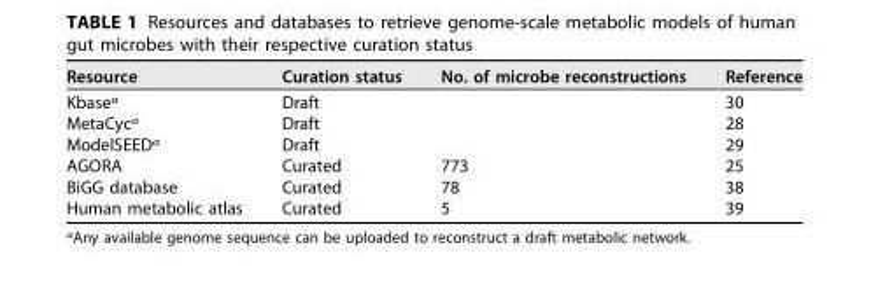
<table><thead><tr><td>Resource</td><td>Curation status</td><td>No. of microbe reconstructions</td><td>Reference</td></tr></thead><tbody><tr><td>Kbase<sup>a</sup></td><td>Draft</td><td></td><td>30</td></tr><tr><td>MetaCyc<sup>a</sup></td><td>Draft</td><td></td><td>28</td></tr><tr><td>ModelSEED<sup>a</sup></td><td>Draft</td><td></td><td>29</td></tr><tr><td>AGORA</td><td>Curated</td><td>773</td><td>25</td></tr><tr><td>BiGG database</td><td>Curated</td><td>78</td><td>38</td></tr><tr><td>Human metabolic atlas</td><td>Curated</td><td>5</td><td>39</td></tr></tbody></table>